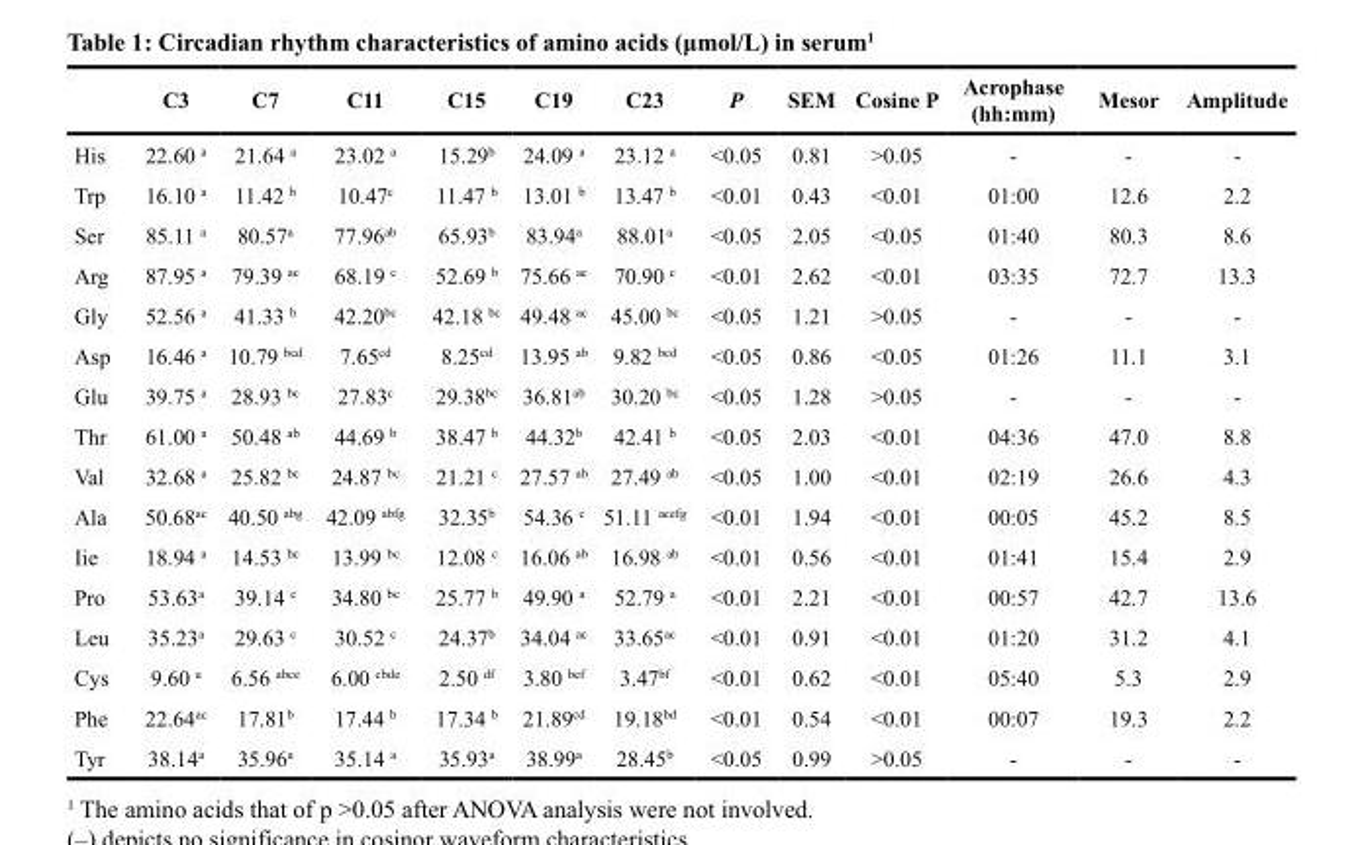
<table><thead><tr><td></td><td>C3</td><td>C7</td><td>C11</td><td>C15</td><td>C19</td><td>C23</td><td>P</td><td>SEM</td><td>Cosine P</td><td>Acrophase (hh:mm)</td><td>Mesor</td><td>Amplitude</td></tr></thead><tbody><tr><td>His</td><td>22.60 <sup>a</sup></td><td>21.64 <sup>a</sup></td><td>23.02 <sup>a</sup></td><td>15.29<sup>b</sup></td><td>24.09 <sup>a</sup></td><td>23.12 <sup>a</sup></td><td>&lt;0.05</td><td>0.81</td><td>&gt;0.05</td><td>-</td><td>-</td><td>-</td></tr><tr><td>Trp</td><td>16.10 <sup>a</sup></td><td>11.42 <sup>b</sup></td><td>10.47<sup>c</sup></td><td>11.47 <sup>b</sup></td><td>13.01 <sup>b</sup></td><td>13.47 <sup>b</sup></td><td>&lt;0.01</td><td>0.43</td><td>&lt;0.01</td><td>01:00</td><td>12.6</td><td>2.2</td></tr><tr><td>Ser</td><td>85.11 <sup>a</sup></td><td>80.57<sup>a</sup></td><td>77.96<sup>ab</sup></td><td>65.93<sup>b</sup></td><td>83.94<sup>a</sup></td><td>88.01<sup>a</sup></td><td>&lt;0.05</td><td>2.05</td><td>&lt;0.05</td><td>01:40</td><td>80.3</td><td>8.6</td></tr><tr><td>Arg</td><td>87.95 <sup>a</sup></td><td>79.39 <sup>ac</sup></td><td>68.19 <sup>c</sup></td><td>52.69 <sup>b</sup></td><td>75.66 <sup>ac</sup></td><td>70.90 <sup>c</sup></td><td>&lt;0.01</td><td>2.62</td><td>&lt;0.01</td><td>03:35</td><td>72.7</td><td>13.3</td></tr><tr><td>Gly</td><td>52.56 <sup>a</sup></td><td>41.33 <sup>b</sup></td><td>42.20<sup>bc</sup></td><td>42.18 <sup>bc</sup></td><td>49.48 <sup>ac</sup></td><td>45.00 <sup>bc</sup></td><td>&lt;0.05</td><td>1.21</td><td>&gt;0.05</td><td>-</td><td>-</td><td>-</td></tr><tr><td>Asp</td><td>16.46 <sup>a</sup></td><td>10.79 <sup>bcd</sup></td><td>7.65<sup>cd</sup></td><td>8.25<sup>cd</sup></td><td>13.95 <sup>ab</sup></td><td>9.82 <sup>bcd</sup></td><td>&lt;0.05</td><td>0.86</td><td>&lt;0.05</td><td>01:26</td><td>11.1</td><td>3.1</td></tr><tr><td>Glu</td><td>39.75 <sup>a</sup></td><td>28.93 <sup>bc</sup></td><td>27.83<sup>c</sup></td><td>29.38<sup>bc</sup></td><td>36.81<sup>ab</sup></td><td>30.20 <sup>bc</sup></td><td>&lt;0.05</td><td>1.28</td><td>&gt;0.05</td><td>-</td><td>-</td><td>-</td></tr><tr><td>Thr</td><td>61.00 <sup>a</sup></td><td>50.48 <sup>ab</sup></td><td>44.69 <sup>b</sup></td><td>38.47 <sup>b</sup></td><td>44.32<sup>b</sup></td><td>42.41 <sup>b</sup></td><td>&lt;0.05</td><td>2.03</td><td>&lt;0.01</td><td>04:36</td><td>47.0</td><td>8.8</td></tr><tr><td>Val</td><td>32.68 <sup>a</sup></td><td>25.82 <sup>bc</sup></td><td>24.87 <sup>bc</sup></td><td>21.21 <sup>c</sup></td><td>27.57 <sup>ab</sup></td><td>27.49 <sup>ab</sup></td><td>&lt;0.05</td><td>1.00</td><td>&lt;0.01</td><td>02:19</td><td>26.6</td><td>4.3</td></tr><tr><td>Ala</td><td>50.68<sup>ac</sup></td><td>40.50 <sup>abg</sup></td><td>42.09 <sup>abfg</sup></td><td>32.35<sup>b</sup></td><td>54.36 <sup>c</sup></td><td>51.11 <sup>acefg</sup></td><td>&lt;0.01</td><td>1.94</td><td>&lt;0.01</td><td>00:05</td><td>45.2</td><td>8.5</td></tr><tr><td>Iie</td><td>18.94 <sup>a</sup></td><td>14.53 <sup>bc</sup></td><td>13.99 <sup>bc</sup></td><td>12.08 <sup>c</sup></td><td>16.06 <sup>ab</sup></td><td>16.98 <sup>ab</sup></td><td>&lt;0.01</td><td>0.56</td><td>&lt;0.01</td><td>01:41</td><td>15.4</td><td>2.9</td></tr><tr><td>Pro</td><td>53.63<sup>a</sup></td><td>39.14 <sup>c</sup></td><td>34.80 <sup>bc</sup></td><td>25.77 <sup>b</sup></td><td>49.90 <sup>a</sup></td><td>52.79 <sup>a</sup></td><td>&lt;0.01</td><td>2.21</td><td>&lt;0.01</td><td>00:57</td><td>42.7</td><td>13.6</td></tr><tr><td>Leu</td><td>35.23<sup>a</sup></td><td>29.63 <sup>c</sup></td><td>30.52 <sup>c</sup></td><td>24.37<sup>b</sup></td><td>34.04 <sup>ac</sup></td><td>33.65<sup>ac</sup></td><td>&lt;0.01</td><td>0.91</td><td>&lt;0.01</td><td>01:20</td><td>31.2</td><td>4.1</td></tr><tr><td>Cys</td><td>9.60 <sup>a</sup></td><td>6.56 <sup>abce</sup></td><td>6.00 <sup>cbde</sup></td><td>2.50 <sup>df</sup></td><td>3.80 <sup>bef</sup></td><td>3.47<sup>bf</sup></td><td>&lt;0.01</td><td>0.62</td><td>&lt;0.01</td><td>05:40</td><td>5.3</td><td>2.9</td></tr><tr><td>Phe</td><td>22.64<sup>ac</sup></td><td>17.81<sup>b</sup></td><td>17.44 <sup>b</sup></td><td>17.34 <sup>b</sup></td><td>21.89<sup>cd</sup></td><td>19.18<sup>bd</sup></td><td>&lt;0.01</td><td>0.54</td><td>&lt;0.01</td><td>00:07</td><td>19.3</td><td>2.2</td></tr><tr><td>Tyr</td><td>38.14<sup>a</sup></td><td>35.96<sup>a</sup></td><td>35.14 <sup>a</sup></td><td>35.93<sup>a</sup></td><td>38.99<sup>a</sup></td><td>28.45<sup>b</sup></td><td>&lt;0.05</td><td>0.99</td><td>&gt;0.05</td><td>-</td><td>-</td><td>-</td></tr></tbody></table>